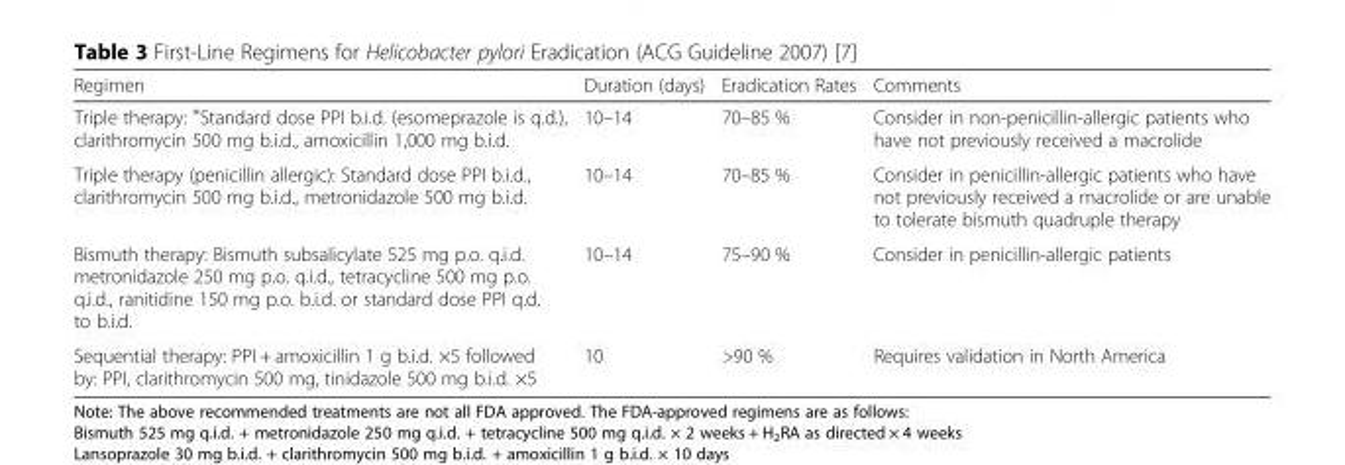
<table><thead><tr><td>Regimen</td><td>Duration (days)</td><td>Eradication Rates</td><td>Comments</td></tr></thead><tbody><tr><td>Triple therapy: ∗Standard dose PPI b.i.d. (esomeprazole is q.d.), clarithromycin 500 mg b.i.d., amoxicillin 1,000 mg b.i.d.</td><td>10–14</td><td>70–85 %</td><td>Consider in non-penicillin-allergic patients who have not previously received a macrolide</td></tr><tr><td>Triple therapy (penicillin allergic): Standard dose PPI b.i.d., clarithromycin 500 mg b.i.d., metronidazole 500 mg b.i.d.</td><td>10–14</td><td>70–85 %</td><td>Consider in penicillin-allergic patients who have not previously received a macrolide or are unable to tolerate bismuth quadruple therapy</td></tr><tr><td>Bismuth therapy: Bismuth subsalicylate 525 mg p.o. q.i.d. metronidazole 250 mg p.o. q.i.d., tetracycline 500 mg p.o. q.i.d., ranitidine 150 mg p.o. b.i.d. or standard dose PPI q.d. to b.i.d.</td><td>10–14</td><td>75–90 %</td><td>Consider in penicillin-allergic patients</td></tr><tr><td>Sequential therapy: PPI + amoxicillin 1 g b.i.d. ×5 followed by: PPI, clarithromycin 500 mg, tinidazole 500 mg b.i.d. ×5</td><td>10</td><td>&gt;90 %</td><td>Requires validation in North America</td></tr></tbody></table>